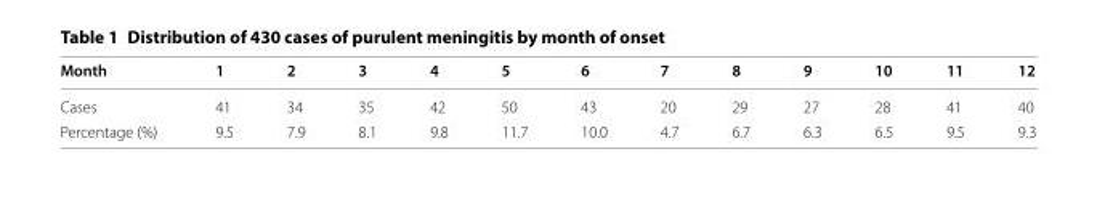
<table><thead><tr><td>Month</td><td>1</td><td>2</td><td>3</td><td>4</td><td>5</td><td>6</td><td>7</td><td>8</td><td>9</td><td>10</td><td>11</td><td>12</td></tr></thead><tbody><tr><td>Cases</td><td>41</td><td>34</td><td>35</td><td>42</td><td>50</td><td>43</td><td>20</td><td>29</td><td>27</td><td>28</td><td>41</td><td>40</td></tr><tr><td>Percentage (%)</td><td>9.5</td><td>7.9</td><td>8.1</td><td>9.8</td><td>11.7</td><td>10.0</td><td>4.7</td><td>6.7</td><td>6.3</td><td>6.5</td><td>9.5</td><td>9.3</td></tr></tbody></table>